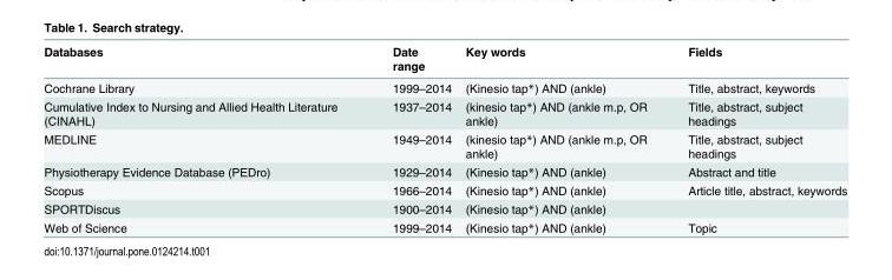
<table><thead><tr><td>Databases</td><td>Date range</td><td>Key words</td><td>Fields</td></tr></thead><tbody><tr><td>Cochrane Library</td><td>1999–2014</td><td>(Kinesio tap*) AND (ankle)</td><td>Title, abstract, keywords</td></tr><tr><td>Cumulative Index to Nursing and Allied Health Literature (CINAHL)</td><td>1937–2014</td><td>(kinesio tap*) AND (ankle m.p, OR ankle)</td><td>Title, abstract, subject headings</td></tr><tr><td>MEDLINE</td><td>1949–2014</td><td>(kinesio tap*) AND (ankle m.p, OR ankle)</td><td>Title, abstract, subject headings</td></tr><tr><td>Physiotherapy Evidence Database (PEDro)</td><td>1929–2014</td><td>(Kinesio tap*) AND (ankle)</td><td>Abstract and title</td></tr><tr><td>Scopus</td><td>1966–2014</td><td>(Kinesio tap*) AND (ankle)</td><td>Article title, abstract, keywords</td></tr><tr><td>SPORTDiscus</td><td>1900–2014</td><td>(Kinesio tap*) AND (ankle)</td><td></td></tr><tr><td>Web of Science</td><td>1999–2014</td><td>(Kinesio tap*) AND (ankle)</td><td>Topic</td></tr></tbody></table>